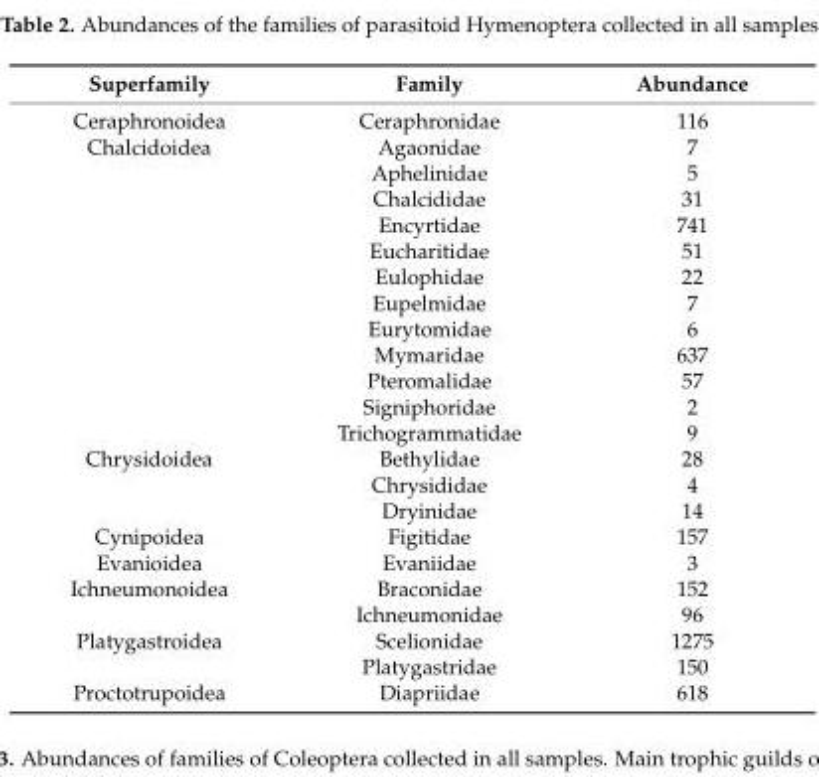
<table><thead><tr><td>Superfamily</td><td>Family</td><td>Abundance</td></tr></thead><tbody><tr><td>Ceraphronoidea</td><td>Ceraphronidae</td><td>116</td></tr><tr><td rowspan="12">Chalcidoidea</td><td>Agaonidae</td><td>7</td></tr><tr><td>Aphelinidae</td><td>5</td></tr><tr><td>Chalcididae</td><td>31</td></tr><tr><td>Encyrtidae</td><td>741</td></tr><tr><td>Eucharitidae</td><td>51</td></tr><tr><td>Eulophidae</td><td>22</td></tr><tr><td>Eupelmidae</td><td>7</td></tr><tr><td>Eurytomidae</td><td>6</td></tr><tr><td>Mymaridae</td><td>637</td></tr><tr><td>Pteromalidae</td><td>57</td></tr><tr><td>Signiphoridae</td><td>2</td></tr><tr><td>Trichogrammatidae</td><td>9</td></tr><tr><td rowspan="3">Chrysidoidea</td><td>Bethylidae</td><td>28</td></tr><tr><td>Chrysididae</td><td>4</td></tr><tr><td>Dryinidae</td><td>14</td></tr><tr><td>Cynipoidea</td><td>Figitidae</td><td>157</td></tr><tr><td>Evanioidea</td><td>Evaniidae</td><td>3</td></tr><tr><td rowspan="2">Ichneumonoidea</td><td>Braconidae</td><td>152</td></tr><tr><td>Ichneumonidae</td><td>96</td></tr><tr><td rowspan="2">Platygastroidea</td><td>Scelionidae</td><td>1275</td></tr><tr><td>Platygastridae</td><td>150</td></tr><tr><td>Proctotrupoidea</td><td>Diapriidae</td><td>618</td></tr></tbody></table>